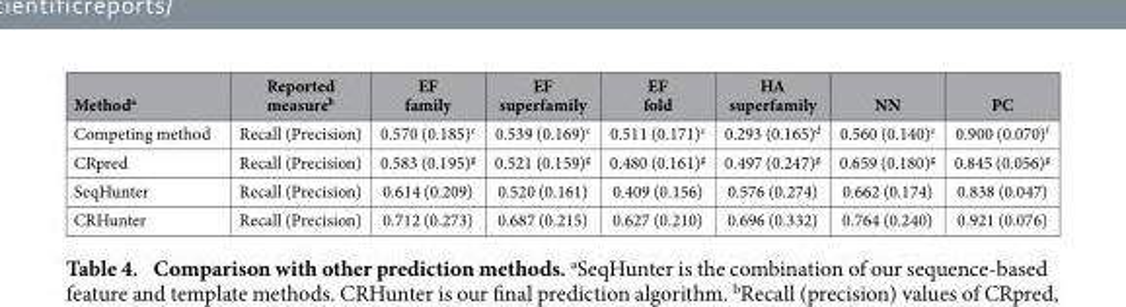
<table><thead><tr><td>Method<sup>a</sup></td><td>Reported measure<sup>b</sup></td><td>EF family</td><td>EF superfamily</td><td>EF fold</td><td>HA superfamily</td><td>NN</td><td>PC</td></tr></thead><tbody><tr><td>Competing method</td><td>Recall (Precision)</td><td>0.570 (0.185)<sup>c</sup></td><td>0.539 (0.169)<sup>c</sup></td><td>0.511 (0.171)<sup>c</sup></td><td>0.293 (0.165)<sup>d</sup></td><td>0.560 (0.140)<sup>e</sup></td><td>0.900 (0.070)<sup>f</sup></td></tr><tr><td>CRpred</td><td>Recall (Precision)</td><td>0.583 (0.195)<sup>g</sup></td><td>0.521 (0.159)<sup>g</sup></td><td>0.480 (0.161)<sup>g</sup></td><td>0.497 (0.247)<sup>g</sup></td><td>0.659 (0.180)<sup>g</sup></td><td>0.845 (0.056)<sup>g</sup></td></tr><tr><td>SeqHunter</td><td>Recall (Precision)</td><td>0.614 (0.209)</td><td>0.520 (0.161)</td><td>0.409 (0.156)</td><td>0.576 (0.274)</td><td>0.662 (0.174)</td><td>0.838 (0.047)</td></tr><tr><td>CRHunter</td><td>Recall (Precision)</td><td>0.712 (0.273)</td><td>0.687 (0.215)</td><td>0.627 (0.210)</td><td>0.696 (0.332)</td><td>0.764 (0.240)</td><td>0.921 (0.076)</td></tr></tbody></table>